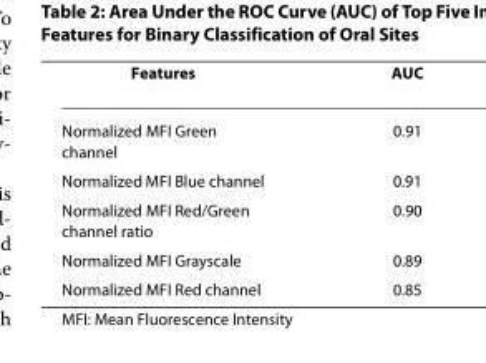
<table><thead><tr><td>Features</td><td>AUC</td></tr></thead><tbody><tr><td>Normalized MFI Green channel</td><td>0.91</td></tr><tr><td>Normalized MFI Blue channel</td><td>0.91</td></tr><tr><td>Normalized MFI Red/Green channel ratio</td><td>0.90</td></tr><tr><td>Normalized MFI Grayscale</td><td>0.89</td></tr><tr><td>Normalized MFI Red channel</td><td>0.85</td></tr></tbody></table>